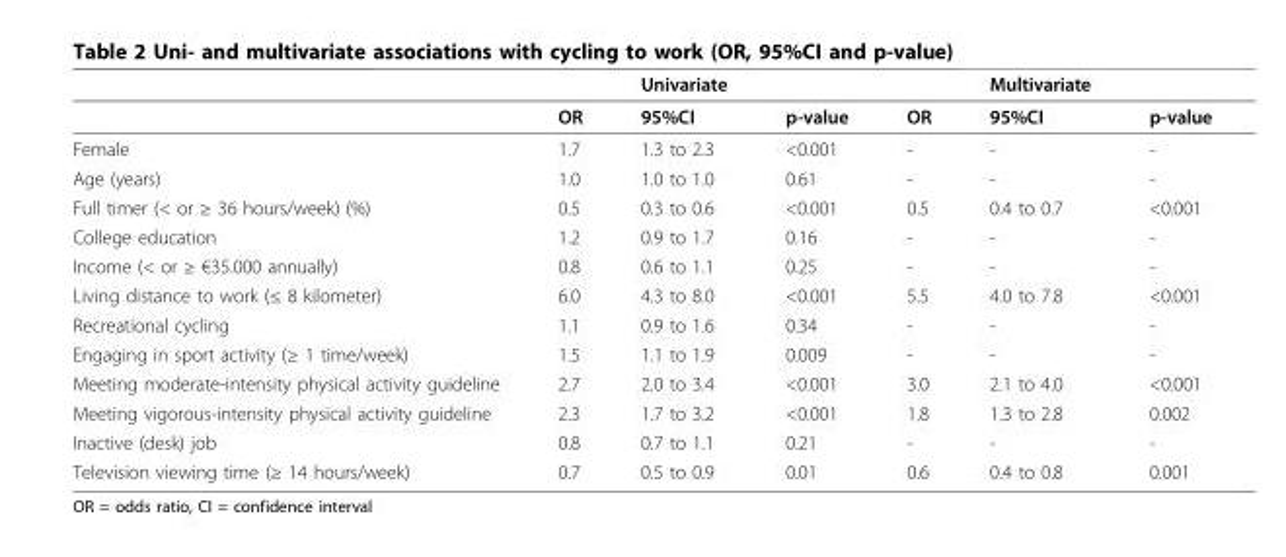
<table><thead><tr><td></td><td></td><td>Univariate</td><td></td><td></td><td>Multivariate</td><td></td></tr></thead><tbody><tr><td></td><td>OR</td><td>95%CI</td><td>p-value</td><td>OR</td><td>95%CI</td><td>p-value</td></tr><tr><td>Female</td><td>1.7</td><td>1.3 to 2.3</td><td>&lt;0.001</td><td>-</td><td>-</td><td>-</td></tr><tr><td>Age (years)</td><td>1.0</td><td>1.0 to 1.0</td><td>0.61</td><td>-</td><td>-</td><td>-</td></tr><tr><td>Full timer (&lt; or ≥ 36 hours/week) (%)</td><td>0.5</td><td>0.3 to 0.6</td><td>&lt;0.001</td><td>0.5</td><td>0.4 to 0.7</td><td>&lt;0.001</td></tr><tr><td>College education</td><td>1.2</td><td>0.9 to 1.7</td><td>0.16</td><td>-</td><td>-</td><td>-</td></tr><tr><td>Income (&lt; or ≥ €35.000 annually)</td><td>0.8</td><td>0.6 to 1.1</td><td>0.25</td><td>-</td><td>-</td><td>-</td></tr><tr><td>Living distance to work (≤ 8 kilometer)</td><td>6.0</td><td>4.3 to 8.0</td><td>&lt;0.001</td><td>5.5</td><td>4.0 to 7.8</td><td>&lt;0.001</td></tr><tr><td>Recreational cycling</td><td>1.1</td><td>0.9 to 1.6</td><td>0.34</td><td>-</td><td>-</td><td>-</td></tr><tr><td>Engaging in sport activity (≥ 1 time/week)</td><td>1.5</td><td>1.1 to 1.9</td><td>0.009</td><td>-</td><td>-</td><td>-</td></tr><tr><td>Meeting moderate-intensity physical activity guideline</td><td>2.7</td><td>2.0 to 3.4</td><td>&lt;0.001</td><td>3.0</td><td>2.1 to 4.0</td><td>&lt;0.001</td></tr><tr><td>Meeting vigorous-intensity physical activity guideline</td><td>2.3</td><td>1.7 to 3.2</td><td>&lt;0.001</td><td>1.8</td><td>1.3 to 2.8</td><td>0.002</td></tr><tr><td>Inactive (desk) job</td><td>0.8</td><td>0.7 to 1.1</td><td>0.21</td><td>-</td><td>-</td><td>-</td></tr><tr><td>Television viewing time (≥ 14 hours/week)</td><td>0.7</td><td>0.5 to 0.9</td><td>0.01</td><td>0.6</td><td>0.4 to 0.8</td><td>0.001</td></tr></tbody></table>